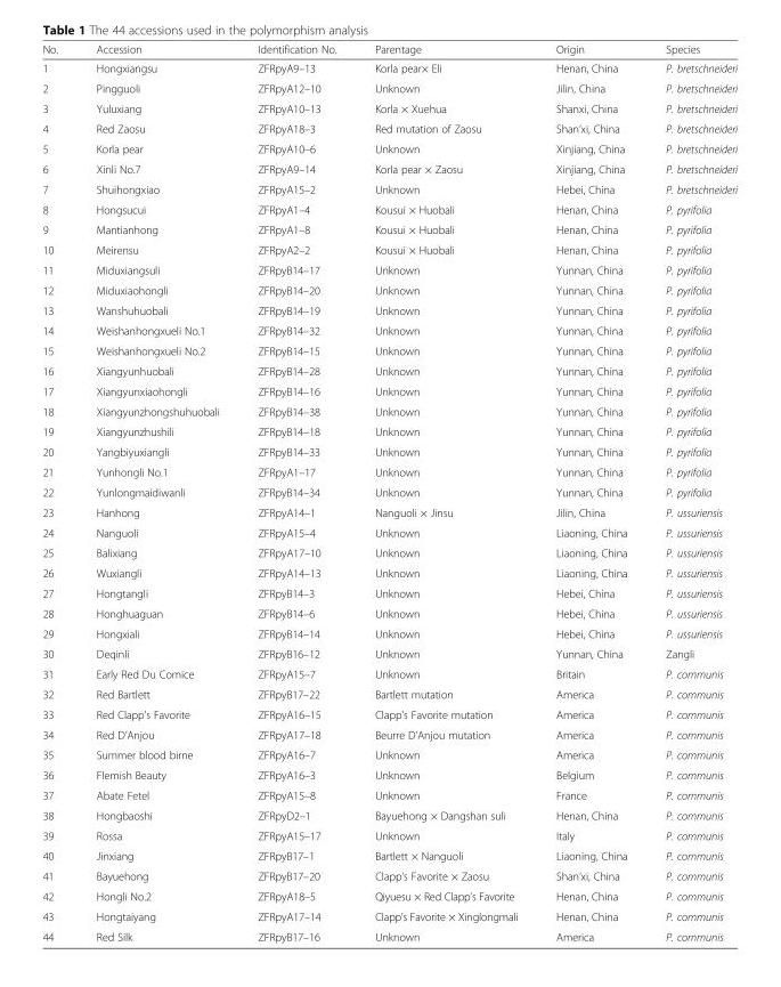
<table><thead><tr><td>No.</td><td>Accession</td><td>Identification No.</td><td>Parentage</td><td>Origin</td><td>Species</td></tr></thead><tbody><tr><td>1</td><td>Hongxiangsu</td><td>ZFRpyA9–13</td><td>Korla pear× Eli</td><td>Henan, China</td><td>P. bretschneideri</td></tr><tr><td>2</td><td>Pingguoli</td><td>ZFRpyA12–10</td><td>Unknown</td><td>Jilin, China</td><td>P. bretschneideri</td></tr><tr><td>3</td><td>Yuluxiang</td><td>ZFRpyA10–13</td><td>Korla × Xuehua</td><td>Shanxi, China</td><td>P. bretschneideri</td></tr><tr><td>4</td><td>Red Zaosu</td><td>ZFRpyA18–3</td><td>Red mutation of Zaosu</td><td>Shan’xi, China</td><td>P. bretschneideri</td></tr><tr><td>5</td><td>Korla pear</td><td>ZFRpyA10–6</td><td>Unknown</td><td>Xinjiang, China</td><td>P. bretschneideri</td></tr><tr><td>6</td><td>Xinli No.7</td><td>ZFRpyA9–14</td><td>Korla pear × Zaosu</td><td>Xinjiang, China</td><td>P. bretschneideri</td></tr><tr><td>7</td><td>Shuihongxiao</td><td>ZFRpyA15–2</td><td>Unknown</td><td>Hebei, China</td><td>P. bretschneideri</td></tr><tr><td>8</td><td>Hongsucui</td><td>ZFRpyA1–4</td><td>Kousui × Huobali</td><td>Henan, China</td><td>P. pyrifolia</td></tr><tr><td>9</td><td>Mantianhong</td><td>ZFRpyA1–8</td><td>Kousui × Huobali</td><td>Henan, China</td><td>P. pyrifolia</td></tr><tr><td>10</td><td>Meirensu</td><td>ZFRpyA2–2</td><td>Kousui × Huobali</td><td>Henan, China</td><td>P. pyrifolia</td></tr><tr><td>11</td><td>Miduxiangsuli</td><td>ZFRpyB14–17</td><td>Unknown</td><td>Yunnan, China</td><td>P. pyrifolia</td></tr><tr><td>12</td><td>Miduxiaohongli</td><td>ZFRpyB14–20</td><td>Unknown</td><td>Yunnan, China</td><td>P. pyrifolia</td></tr><tr><td>13</td><td>Wanshuhuobali</td><td>ZFRpyB14–19</td><td>Unknown</td><td>Yunnan, China</td><td>P. pyrifolia</td></tr><tr><td>14</td><td>Weishanhongxueli No.1</td><td>ZFRpyB14–32</td><td>Unknown</td><td>Yunnan, China</td><td>P. pyrifolia</td></tr><tr><td>15</td><td>Weishanhongxueli No.2</td><td>ZFRpyB14–15</td><td>Unknown</td><td>Yunnan, China</td><td>P. pyrifolia</td></tr><tr><td>16</td><td>Xiangyunhuobali</td><td>ZFRpyB14–28</td><td>Unknown</td><td>Yunnan, China</td><td>P. pyrifolia</td></tr><tr><td>17</td><td>Xiangyunxiaohongli</td><td>ZFRpyB14–16</td><td>Unknown</td><td>Yunnan, China</td><td>P. pyrifolia</td></tr><tr><td>18</td><td>Xiangyunzhongshuhuobali</td><td>ZFRpyB14–38</td><td>Unknown</td><td>Yunnan, China</td><td>P. pyrifolia</td></tr><tr><td>19</td><td>Xiangyunzhushili</td><td>ZFRpyB14–18</td><td>Unknown</td><td>Yunnan, China</td><td>P. pyrifolia</td></tr><tr><td>20</td><td>Yangbiyuxiangli</td><td>ZFRpyB14–33</td><td>Unknown</td><td>Yunnan, China</td><td>P. pyrifolia</td></tr><tr><td>21</td><td>Yunhongli No.1</td><td>ZFRpyA1–17</td><td>Unknown</td><td>Yunnan, China</td><td>P. pyrifolia</td></tr><tr><td>22</td><td>Yunlongmaidiwanli</td><td>ZFRpyB14–34</td><td>Unknown</td><td>Yunnan, China</td><td>P. pyrifolia</td></tr><tr><td>23</td><td>Hanhong</td><td>ZFRpyA14–1</td><td>Nanguoli × Jinsu</td><td>Jilin, China</td><td>P. ussuriensis</td></tr><tr><td>24</td><td>Nanguoli</td><td>ZFRpyA15–4</td><td>Unknown</td><td>Liaoning, China</td><td>P. ussuriensis</td></tr><tr><td>25</td><td>Balixiang</td><td>ZFRpyA17–10</td><td>Unknown</td><td>Liaoning, China</td><td>P. ussuriensis</td></tr><tr><td>26</td><td>Wuxiangli</td><td>ZFRpyA14–13</td><td>Unknown</td><td>Liaoning, China</td><td>P. ussuriensis</td></tr><tr><td>27</td><td>Hongtangli</td><td>ZFRpyB14–3</td><td>Unknown</td><td>Hebei, China</td><td>P. ussuriensis</td></tr><tr><td>28</td><td>Honghuaguan</td><td>ZFRpyB14–6</td><td>Unknown</td><td>Hebei, China</td><td>P. ussuriensis</td></tr><tr><td>29</td><td>Hongxiali</td><td>ZFRpyB14–14</td><td>Unknown</td><td>Hebei, China</td><td>P. ussuriensis</td></tr><tr><td>30</td><td>Deqinli</td><td>ZFRpyB16–12</td><td>Unknown</td><td>Yunnan, China</td><td>Zangli</td></tr><tr><td>31</td><td>Early Red Du Comice</td><td>ZFRpyA15–7</td><td>Unknown</td><td>Britain</td><td>P. communis</td></tr><tr><td>32</td><td>Red Bartlett</td><td>ZFRpyB17–22</td><td>Bartlett mutation</td><td>America</td><td>P. communis</td></tr><tr><td>33</td><td>Red Clapp’s Favorite</td><td>ZFRpyA16–15</td><td>Clapp’s Favorite mutation</td><td>America</td><td>P. communis</td></tr><tr><td>34</td><td>Red D’Anjou</td><td>ZFRpyA17–18</td><td>Beurre D’Anjou mutation</td><td>America</td><td>P. communis</td></tr><tr><td>35</td><td>Summer blood birne</td><td>ZFRpyA16–7</td><td>Unknown</td><td>America</td><td>P. communis</td></tr><tr><td>36</td><td>Flemish Beauty</td><td>ZFRpyA16–3</td><td>Unknown</td><td>Belgium</td><td>P. communis</td></tr><tr><td>37</td><td>Abate Fetel</td><td>ZFRpyA15–8</td><td>Unknown</td><td>France</td><td>P. communis</td></tr><tr><td>38</td><td>Hongbaoshi</td><td>ZFRpyD2–1</td><td>Bayuehong × Dangshan suli</td><td>Henan, China</td><td>P. communis</td></tr><tr><td>39</td><td>Rossa</td><td>ZFRpyA15–17</td><td>Unknown</td><td>Italy</td><td>P. communis</td></tr><tr><td>40</td><td>Jinxiang</td><td>ZFRpyB17–1</td><td>Bartlett × Nanguoli</td><td>Liaoning, China</td><td>P. communis</td></tr><tr><td>41</td><td>Bayuehong</td><td>ZFRpyB17–20</td><td>Clapp’s Favorite × Zaosu</td><td>Shan’xi, China</td><td>P. communis</td></tr><tr><td>42</td><td>Hongli No.2</td><td>ZFRpyA18–5</td><td>Qiyuesu × Red Clapp’s Favorite</td><td>Henan, China</td><td>P. communis</td></tr><tr><td>43</td><td>Hongtaiyang</td><td>ZFRpyA17–14</td><td>Clapp’s Favorite × Xinglongmali</td><td>Henan, China</td><td>P. communis</td></tr><tr><td>44</td><td>Red Silk</td><td>ZFRpyB17–16</td><td>Unknown</td><td>America</td><td>P. communis</td></tr></tbody></table>